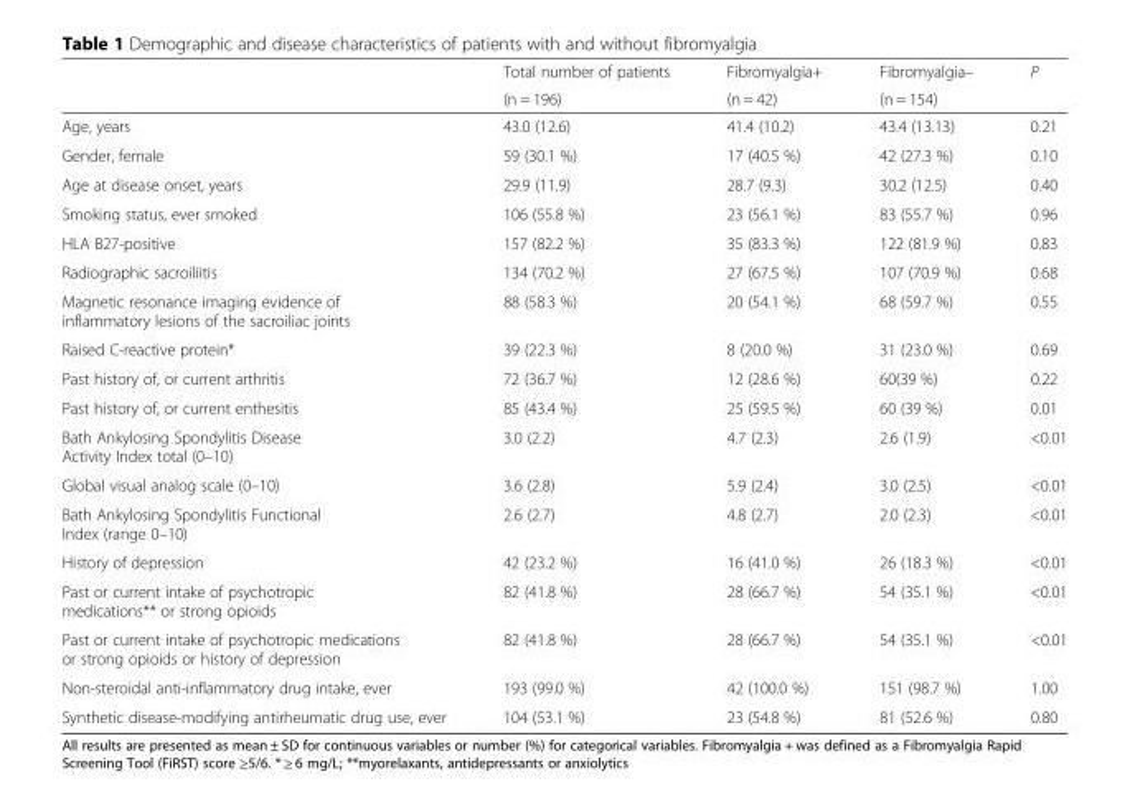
<table><thead><tr><td rowspan="2"></td><td rowspan="2">Total number of patients (n = 196)</td><td rowspan="2">Fibromyalgia+ (n = 42)</td><td rowspan="2">Fibromyalgia– (n = 154)</td><td rowspan="2">P</td></tr><tr></tr></thead><tbody><tr><td>Age, years</td><td>43.0 (12.6)</td><td>41.4 (10.2)</td><td>43.4 (13.13)</td><td>0.21</td></tr><tr><td>Gender, female</td><td>59 (30.1 %)</td><td>17 (40.5 %)</td><td>42 (27.3 %)</td><td>0.10</td></tr><tr><td>Age at disease onset, years</td><td>29.9 (11.9)</td><td>28.7 (9.3)</td><td>30.2 (12.5)</td><td>0.40</td></tr><tr><td>Smoking status, ever smoked</td><td>106 (55.8 %)</td><td>23 (56.1 %)</td><td>83 (55.7 %)</td><td>0.96</td></tr><tr><td>HLA B27-positive</td><td>157 (82.2 %)</td><td>35 (83.3 %)</td><td>122 (81.9 %)</td><td>0.83</td></tr><tr><td>Radiographic sacroiliitis</td><td>134 (70.2 %)</td><td>27 (67.5 %)</td><td>107 (70.9 %)</td><td>0.68</td></tr><tr><td>Magnetic resonance imaging evidence of inflammatory lesions of the sacroiliac joints</td><td>88 (58.3 %)</td><td>20 (54.1 %)</td><td>68 (59.7 %)</td><td>0.55</td></tr><tr><td>Raised C-reactive protein*</td><td>39 (22.3 %)</td><td>8 (20.0 %)</td><td>31 (23.0 %)</td><td>0.69</td></tr><tr><td>Past history of, or current arthritis</td><td>72 (36.7 %)</td><td>12 (28.6 %)</td><td>60(39 %)</td><td>0.22</td></tr><tr><td>Past history of, or current enthesitis</td><td>85 (43.4 %)</td><td>25 (59.5 %)</td><td>60 (39 %)</td><td>0.01</td></tr><tr><td>Bath Ankylosing Spondylitis Disease Activity Index total (0–10)</td><td>3.0 (2.2)</td><td>4.7 (2.3)</td><td>2.6 (1.9)</td><td>&lt;0.01</td></tr><tr><td>Global visual analog scale (0–10)</td><td>3.6 (2.8)</td><td>5.9 (2.4)</td><td>3.0 (2.5)</td><td>&lt;0.01</td></tr><tr><td>Bath Ankylosing Spondylitis Functional Index (range 0–10)</td><td>2.6 (2.7)</td><td>4.8 (2.7)</td><td>2.0 (2.3)</td><td>&lt;0.01</td></tr><tr><td>History of depression</td><td>42 (23.2 %)</td><td>16 (41.0 %)</td><td>26 (18.3 %)</td><td>&lt;0.01</td></tr><tr><td>Past or current intake of psychotropic medications** or strong opioids</td><td>82 (41.8 %)</td><td>28 (66.7 %)</td><td>54 (35.1 %)</td><td>&lt;0.01</td></tr><tr><td>Past or current intake of psychotropic medications or strong opioids or history of depression</td><td>82 (41.8 %)</td><td>28 (66.7 %)</td><td>54 (35.1 %)</td><td>&lt;0.01</td></tr><tr><td>Non-steroidal anti-inflammatory drug intake, ever</td><td>193 (99.0 %)</td><td>42 (100.0 %)</td><td>151 (98.7 %)</td><td>1.00</td></tr><tr><td>Synthetic disease-modifying antirheumatic drug use, ever</td><td>104 (53.1 %)</td><td>23 (54.8 %)</td><td>81 (52.6 %)</td><td>0.80</td></tr></tbody></table>